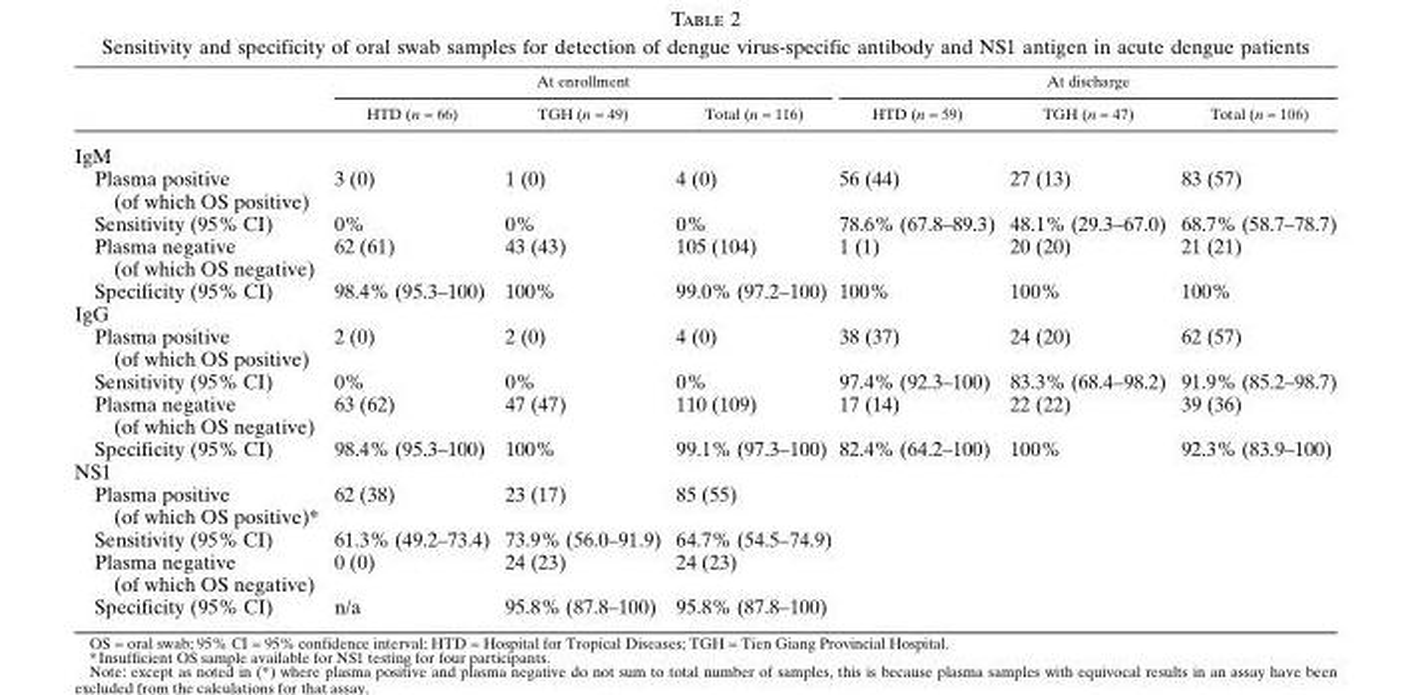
<table><thead><tr><td rowspan="2"></td><td colspan="3">At enrollment</td><td colspan="3">At discharge</td></tr><tr><td>HTD (n = 66)</td><td>TGH (n = 49)</td><td>Total (n = 116)</td><td>HTD (n = 59)</td><td>TGH (n = 47)</td><td>Total (n = 106)</td></tr></thead><tbody><tr><td colspan="7">IgM</td></tr><tr><td>Plasma positive (of which OS positive)</td><td>3 (0)</td><td>1 (0)</td><td>4 (0)</td><td>56 (44)</td><td>27 (13)</td><td>83 (57)</td></tr><tr><td>Sensitivity (95% CI)</td><td>0%</td><td>0%</td><td>0%</td><td>78.6% (67.8–89.3)</td><td>48.1% (29.3–67.0)</td><td>68.7% (58.7–78.7)</td></tr><tr><td>Plasma negative (of which OS negative)</td><td>62 (61)</td><td>43 (43)</td><td>105 (104)</td><td>1 (1)</td><td>20 (20)</td><td>21 (21)</td></tr><tr><td>Specificity (95% CI)</td><td>98.4% (95.3–100)</td><td>100%</td><td>99.0% (97.2–100)</td><td>100%</td><td>100%</td><td>100%</td></tr><tr><td colspan="7">IgG</td></tr><tr><td>Plasma positive (of which OS positive)</td><td>2 (0)</td><td>2 (0)</td><td>4 (0)</td><td>38 (37)</td><td>24 (20)</td><td>62 (57)</td></tr><tr><td>Sensitivity (95% CI)</td><td>0%</td><td>0%</td><td>0%</td><td>97.4% (92.3–100)</td><td>83.3% (68.4–98.2)</td><td>91.9% (85.2–98.7)</td></tr><tr><td>Plasma negative (of which OS negative)</td><td>63 (62)</td><td>47 (47)</td><td>110 (109)</td><td>17 (14)</td><td>22 (22)</td><td>39 (36)</td></tr><tr><td>Specificity (95% CI)</td><td>98.4% (95.3–100)</td><td>100%</td><td>99.1% (97.3–100)</td><td>82.4% (64.2–100)</td><td>100%</td><td>92.3% (83.9–100)</td></tr><tr><td colspan="7">NS1</td></tr><tr><td>Plasma positive (of which OS positive)*</td><td>62 (38)</td><td>23 (17)</td><td>85 (55)</td><td></td><td></td><td></td></tr><tr><td>Sensitivity (95% CI)</td><td>61.3% (49.2–73.4)</td><td>73.9% (56.0–91.9)</td><td>64.7% (54.5–74.9)</td><td></td><td></td><td></td></tr><tr><td>Plasma negative (of which OS negative)</td><td>0 (0)</td><td>24 (23)</td><td>24 (23)</td><td></td><td></td><td></td></tr><tr><td>Specificity (95% CI)</td><td>n/a</td><td>95.8% (87.8–100)</td><td>95.8% (87.8–100)</td><td></td><td></td><td></td></tr></tbody></table>